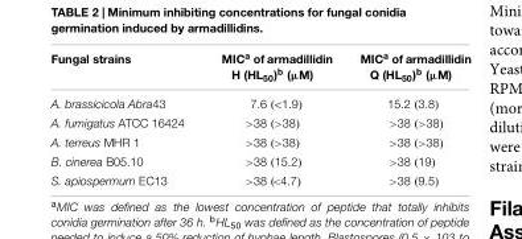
<table><thead><tr><td>Fungal strains</td><td>MIC<sup>a</sup> of armadillidin H (HL<sub>50</sub>)<sup>b</sup> (µM)</td><td>MIC<sup>a</sup> of armadillidin Q (HL<sub>50</sub>)<sup>b</sup> (µM)</td></tr></thead><tbody><tr><td>A. brassicicola Abra43</td><td>7.6 (&lt;1.9)</td><td>15.2 (3.8)</td></tr><tr><td>A. fumigatus ATCC 16424</td><td>&gt;38 (&gt;38)</td><td>&gt;38 (&gt;38)</td></tr><tr><td>A. terreus MHR 1</td><td>&gt;38 (&gt;38)</td><td>&gt;38 (&gt;38)</td></tr><tr><td>B. cinerea B05.10</td><td>&gt;38 (15.2)</td><td>&gt;38 (19)</td></tr><tr><td>S. apiospermum EC13</td><td>&gt;38 (&lt;4.7)</td><td>&gt;38 (9.5)</td></tr></tbody></table>